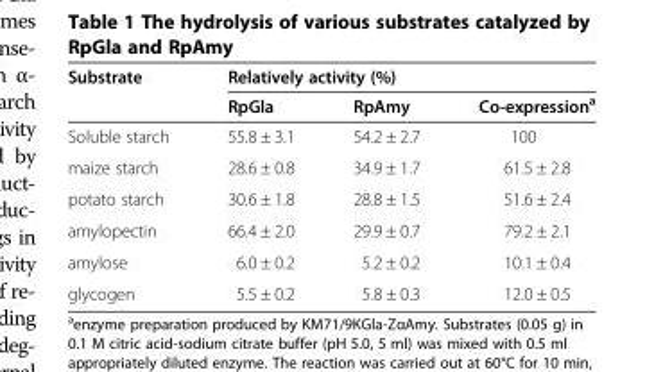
<table><thead><tr><td rowspan="2">Substrate</td><td colspan="3">Relatively activity (%)</td></tr><tr><td>RpGla</td><td>RpAmy</td><td>Co-expression<sup>a</sup></td></tr></thead><tbody><tr><td>Soluble starch</td><td>55.8 ± 3.1</td><td>54.2 ± 2.7</td><td>100</td></tr><tr><td>maize starch</td><td>28.6 ± 0.8</td><td>34.9 ± 1.7</td><td>61.5 ± 2.8</td></tr><tr><td>potato starch</td><td>30.6 ± 1.8</td><td>28.8 ± 1.5</td><td>51.6 ± 2.4</td></tr><tr><td>amylopectin</td><td>66.4 ± 2.0</td><td>29.9 ± 0.7</td><td>79.2 ± 2.1</td></tr><tr><td>amylose</td><td>6.0 ± 0.2</td><td>5.2 ± 0.2</td><td>10.1 ± 0.4</td></tr><tr><td>glycogen</td><td>5.5 ± 0.2</td><td>5.8 ± 0.3</td><td>12.0 ± 0.5</td></tr></tbody></table>